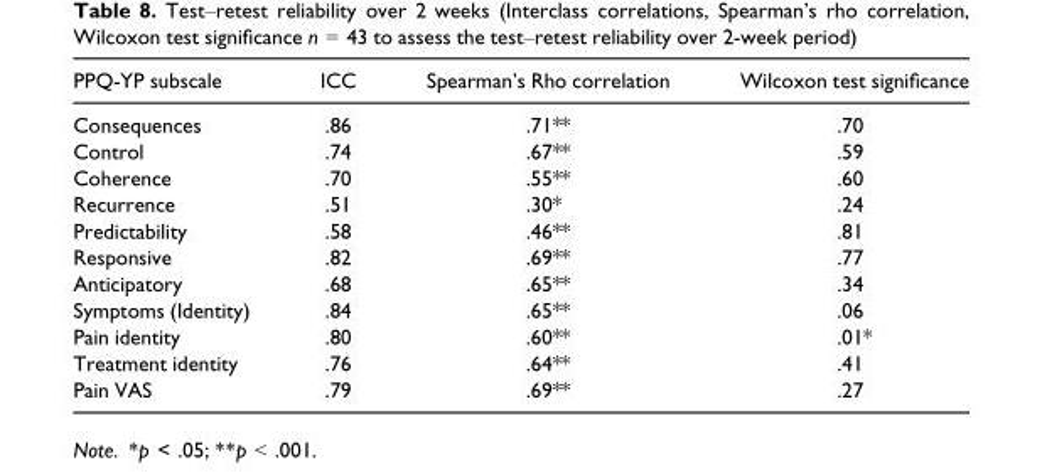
<table><thead><tr><td>PPQ-YP subscale</td><td>ICC</td><td>Spearman’s Rho correlation</td><td>Wilcoxon test significance</td></tr></thead><tbody><tr><td>Consequences</td><td>.86</td><td>.71**</td><td>.70</td></tr><tr><td>Control</td><td>.74</td><td>.67**</td><td>.59</td></tr><tr><td>Coherence</td><td>.70</td><td>.55**</td><td>.60</td></tr><tr><td>Recurrence</td><td>.51</td><td>.30*</td><td>.24</td></tr><tr><td>Predictability</td><td>.58</td><td>.46**</td><td>.81</td></tr><tr><td>Responsive</td><td>.82</td><td>.69**</td><td>.77</td></tr><tr><td>Anticipatory</td><td>.68</td><td>.65**</td><td>.34</td></tr><tr><td>Symptoms (Identity)</td><td>.84</td><td>.65**</td><td>.06</td></tr><tr><td>Pain identity</td><td>.80</td><td>.60**</td><td>.01*</td></tr><tr><td>Treatment identity</td><td>.76</td><td>.64**</td><td>.41</td></tr><tr><td>Pain VAS</td><td>.79</td><td>.69**</td><td>.27</td></tr></tbody></table>